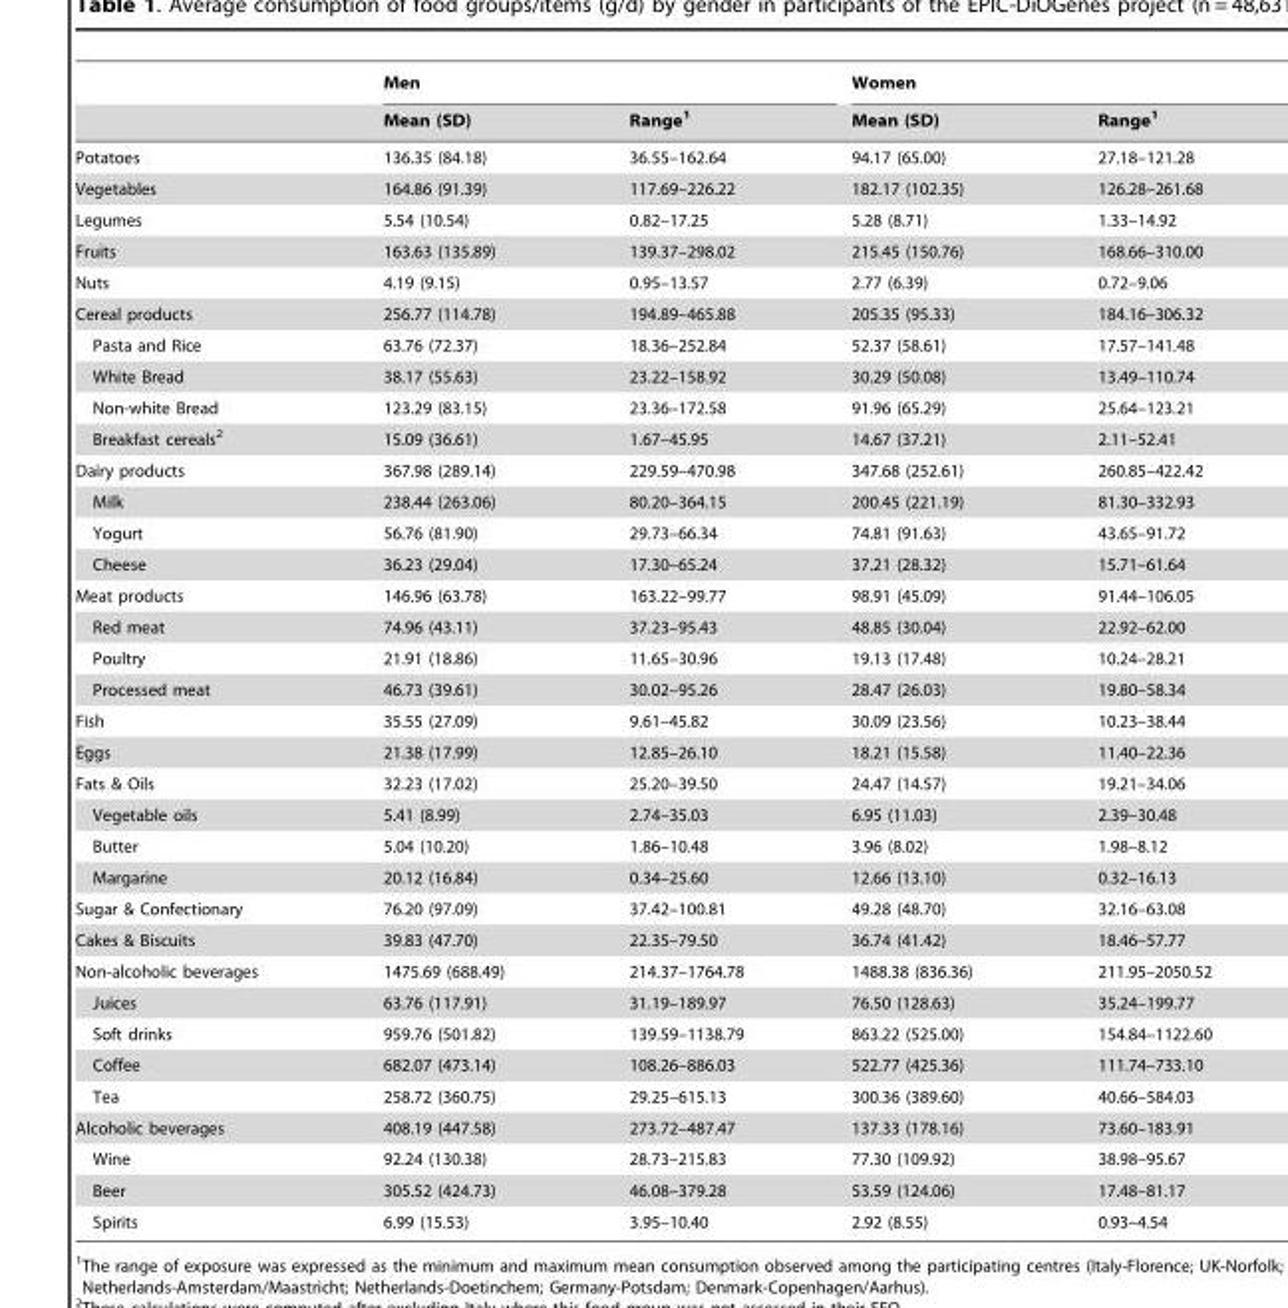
<table><thead><tr><td rowspan="2"></td><td colspan="2">Men</td><td colspan="2">Women</td></tr><tr><td>Mean (SD)</td><td>Range<sup>1</sup></td><td>Mean (SD)</td><td>Range<sup>1</sup></td></tr></thead><tbody><tr><td>Potatoes</td><td>136.35 (84.18)</td><td>36.55–162.64</td><td>94.17 (65.00)</td><td>27.18–121.28</td></tr><tr><td>Vegetables</td><td>164.86 (91.39)</td><td>117.69–226.22</td><td>182.17 (102.35)</td><td>126.28–261.68</td></tr><tr><td>Legumes</td><td>5.54 (10.54)</td><td>0.82–17.25</td><td>5.28 (8.71)</td><td>1.33–14.92</td></tr><tr><td>Fruits</td><td>163.63 (135.89)</td><td>139.37–298.02</td><td>215.45 (150.76)</td><td>168.66–310.00</td></tr><tr><td>Nuts</td><td>4.19 (9.15)</td><td>0.95–13.57</td><td>2.77 (6.39)</td><td>0.72–9.06</td></tr><tr><td>Cereal products</td><td>256.77 (114.78)</td><td>194.89–465.88</td><td>205.35 (95.33)</td><td>184.16–306.32</td></tr><tr><td>Pasta and Rice</td><td>63.76 (72.37)</td><td>18.36–252.84</td><td>52.37 (58.61)</td><td>17.57–141.48</td></tr><tr><td>White Bread</td><td>38.17 (55.63)</td><td>23.22–158.92</td><td>30.29 (50.08)</td><td>13.49–110.74</td></tr><tr><td>Non-white Bread</td><td>123.29 (83.15)</td><td>23.36–172.58</td><td>91.96 (65.29)</td><td>25.64–123.21</td></tr><tr><td>Breakfast cereals<sup>2</sup></td><td>15.09 (36.61)</td><td>1.67–45.95</td><td>14.67 (37.21)</td><td>2.11–52.41</td></tr><tr><td>Dairy products</td><td>367.98 (289.14)</td><td>229.59–470.98</td><td>347.68 (252.61)</td><td>260.85–422.42</td></tr><tr><td>Milk</td><td>238.44 (263.06)</td><td>80.20–364.15</td><td>200.45 (221.19)</td><td>81.30–332.93</td></tr><tr><td>Yogurt</td><td>56.76 (81.90)</td><td>29.73–66.34</td><td>74.81 (91.63)</td><td>43.65–91.72</td></tr><tr><td>Cheese</td><td>36.23 (29.04)</td><td>17.30–65.24</td><td>37.21 (28.32)</td><td>15.71–61.64</td></tr><tr><td>Meat products</td><td>146.96 (63.78)</td><td>163.22–99.77</td><td>98.91 (45.09)</td><td>91.44–106.05</td></tr><tr><td>Red meat</td><td>74.96 (43.11)</td><td>37.23–95.43</td><td>48.85 (30.04)</td><td>22.92–62.00</td></tr><tr><td>Poultry</td><td>21.91 (18.86)</td><td>11.65–30.96</td><td>19.13 (17.48)</td><td>10.24–28.21</td></tr><tr><td>Processed meat</td><td>46.73 (39.61)</td><td>30.02–95.26</td><td>28.47 (26.03)</td><td>19.80–58.34</td></tr><tr><td>Fish</td><td>35.55 (27.09)</td><td>9.61–45.82</td><td>30.09 (23.56)</td><td>10.23–38.44</td></tr><tr><td>Eggs</td><td>21.38 (17.99)</td><td>12.85–26.10</td><td>18.21 (15.58)</td><td>11.40–22.36</td></tr><tr><td>Fats &amp; Oils</td><td>32.23 (17.02)</td><td>25.20–39.50</td><td>24.47 (14.57)</td><td>19.21–34.06</td></tr><tr><td>Vegetable oils</td><td>5.41 (8.99)</td><td>2.74–35.03</td><td>6.95 (11.03)</td><td>2.39–30.48</td></tr><tr><td>Butter</td><td>5.04 (10.20)</td><td>1.86–10.48</td><td>3.96 (8.02)</td><td>1.98–8.12</td></tr><tr><td>Margarine</td><td>20.12 (16.84)</td><td>0.34–25.60</td><td>12.66 (13.10)</td><td>0.32–16.13</td></tr><tr><td>Sugar &amp; Confectionary</td><td>76.20 (97.09)</td><td>37.42–100.81</td><td>49.28 (48.70)</td><td>32.16–63.08</td></tr><tr><td>Cakes &amp; Biscuits</td><td>39.83 (47.70)</td><td>22.35–79.50</td><td>36.74 (41.42)</td><td>18.46–57.77</td></tr><tr><td>Non-alcoholic beverages</td><td>1475.69 (688.49)</td><td>214.37–1764.78</td><td>1488.38 (836.36)</td><td>211.95–2050.52</td></tr><tr><td>Juices</td><td>63.76 (117.91)</td><td>31.19–189.97</td><td>76.50 (128.63)</td><td>35.24–199.77</td></tr><tr><td>Soft drinks</td><td>959.76 (501.82)</td><td>139.59–1138.79</td><td>863.22 (525.00)</td><td>154.84–1122.60</td></tr><tr><td>Coffee</td><td>682.07 (473.14)</td><td>108.26–886.03</td><td>522.77 (425.36)</td><td>111.74–733.10</td></tr><tr><td>Tea</td><td>258.72 (360.75)</td><td>29.25–615.13</td><td>300.36 (389.60)</td><td>40.66–584.03</td></tr><tr><td>Alcoholic beverages</td><td>408.19 (447.58)</td><td>273.72–487.47</td><td>137.33 (178.16)</td><td>73.60–183.91</td></tr><tr><td>Wine</td><td>92.24 (130.38)</td><td>28.73–215.83</td><td>77.30 (109.92)</td><td>38.98–95.67</td></tr><tr><td>Beer</td><td>305.52 (424.73)</td><td>46.08–379.28</td><td>53.59 (124.06)</td><td>17.48–81.17</td></tr><tr><td>Spirits</td><td>6.99 (15.53)</td><td>3.95–10.40</td><td>2.92 (8.55)</td><td>0.93–4.54</td></tr></tbody></table>